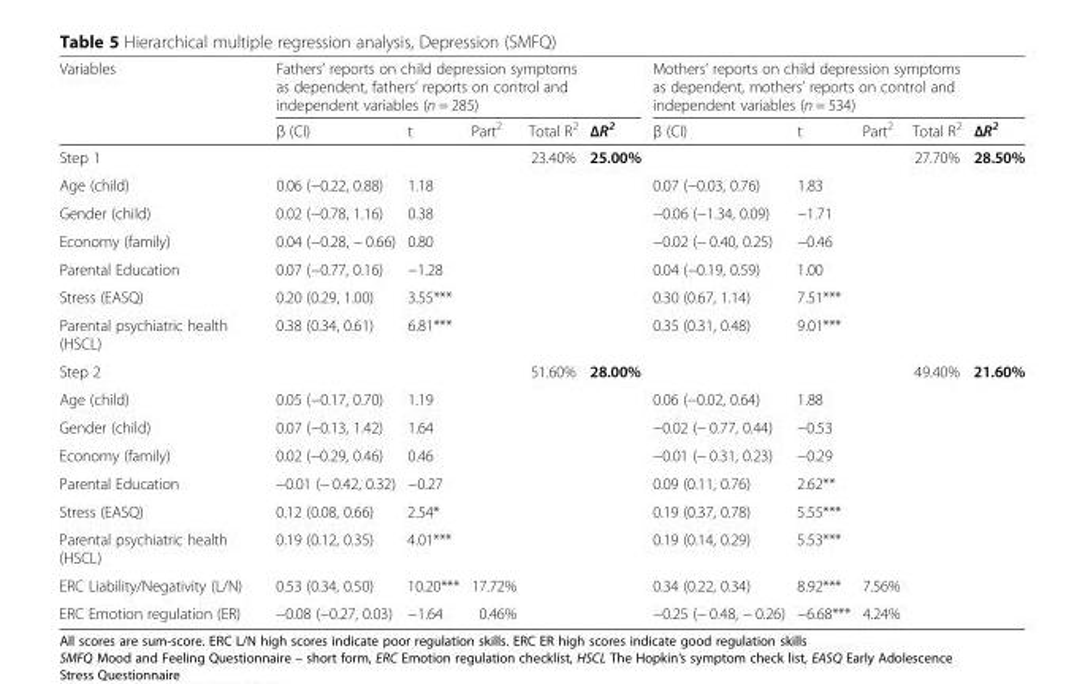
<table><thead><tr><td rowspan="2">Variables</td><td colspan="5">Fathers’ reports on child depression symptoms as dependent, fathers’ reports on control and independent variables (n = 285)</td><td colspan="5">Mothers’ reports on child depression symptoms as dependent, mothers’ reports on control and independent variables (n = 534)</td></tr><tr><td>β (CI)</td><td>t</td><td>Part<sup>2</sup></td><td>Total R<sup>2</sup></td><td>ΔR2</td><td>β (CI)</td><td>t</td><td>Part<sup>2</sup></td><td>Total R<sup>2</sup></td><td>ΔR2</td></tr></thead><tbody><tr><td>Step 1</td><td></td><td></td><td></td><td>23.40%</td><td>25.00%</td><td></td><td></td><td></td><td>27.70%</td><td>28.50%</td></tr><tr><td>Age (child)</td><td>0.06 (−0.22, 0.88)</td><td>1.18</td><td></td><td></td><td></td><td>0.07 (−0.03, 0.76)</td><td>1.83</td><td></td><td></td><td></td></tr><tr><td>Gender (child)</td><td>0.02 (−0.78, 1.16)</td><td>0.38</td><td></td><td></td><td></td><td>−0.06 (−1.34, 0.09)</td><td>−1.71</td><td></td><td></td><td></td></tr><tr><td>Economy (family)</td><td>0.04 (−0.28, − 0.66)</td><td>0.80</td><td></td><td></td><td></td><td>−0.02 (− 0.40, 0.25)</td><td>−0.46</td><td></td><td></td><td></td></tr><tr><td>Parental Education</td><td>0.07 (−0.77, 0.16)</td><td>−1.28</td><td></td><td></td><td></td><td>0.04 (−0.19, 0.59)</td><td>1.00</td><td></td><td></td><td></td></tr><tr><td>Stress (EASQ)</td><td>0.20 (0.29, 1.00)</td><td>3.55***</td><td></td><td></td><td></td><td>0.30 (0.67, 1.14)</td><td>7.51***</td><td></td><td></td><td></td></tr><tr><td>Parental psychiatric health (HSCL)</td><td>0.38 (0.34, 0.61)</td><td>6.81***</td><td></td><td></td><td></td><td>0.35 (0.31, 0.48)</td><td>9.01***</td><td></td><td></td><td></td></tr><tr><td>Step 2</td><td></td><td></td><td></td><td>51.60%</td><td>28.00%</td><td></td><td></td><td></td><td>49.40%</td><td>21.60%</td></tr><tr><td>Age (child)</td><td>0.05 (−0.17, 0.70)</td><td>1.19</td><td></td><td></td><td></td><td>0.06 (−0.02, 0.64)</td><td>1.88</td><td></td><td></td><td></td></tr><tr><td>Gender (child)</td><td>0.07 (−0.13, 1.42)</td><td>1.64</td><td></td><td></td><td></td><td>−0.02 (− 0.77, 0.44)</td><td>−0.53</td><td></td><td></td><td></td></tr><tr><td>Economy (family)</td><td>0.02 (−0.29, 0.46)</td><td>0.46</td><td></td><td></td><td></td><td>−0.01 (− 0.31, 0.23)</td><td>−0.29</td><td></td><td></td><td></td></tr><tr><td>Parental Education</td><td>−0.01 (− 0.42, 0.32)</td><td>−0.27</td><td></td><td></td><td></td><td>0.09 (0.11, 0.76)</td><td>2.62**</td><td></td><td></td><td></td></tr><tr><td>Stress (EASQ)</td><td>0.12 (0.08, 0.66)</td><td>2.54*</td><td></td><td></td><td></td><td>0.19 (0.37, 0.78)</td><td>5.55***</td><td></td><td></td><td></td></tr><tr><td>Parental psychiatric health (HSCL)</td><td>0.19 (0.12, 0.35)</td><td>4.01***</td><td></td><td></td><td></td><td>0.19 (0.14, 0.29)</td><td>5.53***</td><td></td><td></td><td></td></tr><tr><td>ERC Liability/Negativity (L/N)</td><td>0.53 (0.34, 0.50)</td><td>10.20***</td><td>17.72%</td><td></td><td></td><td>0.34 (0.22, 0.34)</td><td>8.92***</td><td>7.56%</td><td></td><td></td></tr><tr><td>ERC Emotion regulation (ER)</td><td>−0.08 (−0.27, 0.03)</td><td>−1.64</td><td>0.46%</td><td></td><td></td><td>−0.25 (− 0.48, − 0.26)</td><td>−6.68***</td><td>4.24%</td><td></td><td></td></tr></tbody></table>